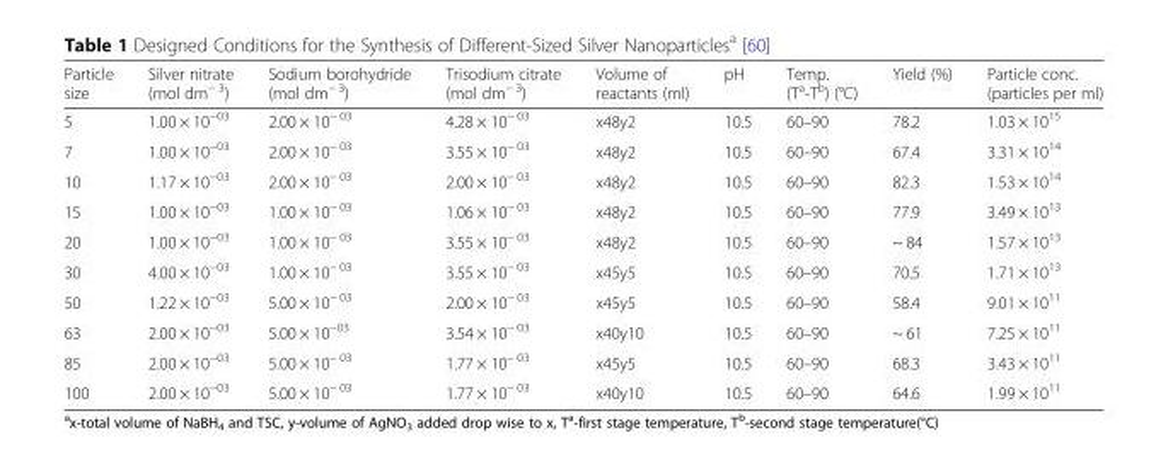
<table><thead><tr><td>Particle size</td><td>Silver nitrate (mol dm<sup>− 3</sup>)</td><td>Sodium borohydride (mol dm<sup>− 3</sup>)</td><td>Trisodium citrate (mol dm<sup>− 3</sup>)</td><td>Volume of reactants (ml)</td><td>pH</td><td>Temp. (T<sup>a</sup>-T<sup>b</sup>) (°C)</td><td>Yield (%)</td><td>Particle conc. (particles per ml)</td></tr></thead><tbody><tr><td>5</td><td>1.00 × 10<sup>−03</sup></td><td>2.00 × 10<sup>− 03</sup></td><td>4.28 × 10<sup>− 03</sup></td><td>x48y2</td><td>10.5</td><td>60–90</td><td>78.2</td><td>1.03 × 10<sup>15</sup></td></tr><tr><td>7</td><td>1.00 × 10<sup>−03</sup></td><td>2.00 × 10<sup>− 03</sup></td><td>3.55 × 10<sup>− 03</sup></td><td>x48y2</td><td>10.5</td><td>60–90</td><td>67.4</td><td>3.31 × 10<sup>14</sup></td></tr><tr><td>10</td><td>1.17 × 10<sup>−03</sup></td><td>2.00 × 10<sup>− 03</sup></td><td>2.00 × 10<sup>− 03</sup></td><td>x48y2</td><td>10.5</td><td>60–90</td><td>82.3</td><td>1.53 × 10<sup>14</sup></td></tr><tr><td>15</td><td>1.00 × 10<sup>−03</sup></td><td>1.00 × 10<sup>− 03</sup></td><td>1.06 × 10<sup>− 03</sup></td><td>x48y2</td><td>10.5</td><td>60–90</td><td>77.9</td><td>3.49 × 10<sup>13</sup></td></tr><tr><td>20</td><td>1.00 × 10<sup>−03</sup></td><td>1.00 × 10<sup>− 03</sup></td><td>3.55 × 10<sup>− 03</sup></td><td>x48y2</td><td>10.5</td><td>60–90</td><td>~ 84</td><td>1.57 × 10<sup>13</sup></td></tr><tr><td>30</td><td>4.00 × 10<sup>−03</sup></td><td>1.00 × 10<sup>− 03</sup></td><td>3.55 × 10<sup>− 03</sup></td><td>x45y5</td><td>10.5</td><td>60–90</td><td>70.5</td><td>1.71 × 10<sup>13</sup></td></tr><tr><td>50</td><td>1.22 × 10<sup>−03</sup></td><td>5.00 × 10<sup>− 03</sup></td><td>2.00 × 10<sup>− 03</sup></td><td>x45y5</td><td>10.5</td><td>60–90</td><td>58.4</td><td>9.01 × 10<sup>11</sup></td></tr><tr><td>63</td><td>2.00 × 10<sup>−03</sup></td><td>5.00 × 10<sup>−03</sup></td><td>3.54 × 10<sup>− 03</sup></td><td>x40y10</td><td>10.5</td><td>60–90</td><td>~ 61</td><td>7.25 × 10<sup>11</sup></td></tr><tr><td>85</td><td>2.00 × 10<sup>−03</sup></td><td>5.00 × 10<sup>− 03</sup></td><td>1.77 × 10<sup>− 03</sup></td><td>x45y5</td><td>10.5</td><td>60–90</td><td>68.3</td><td>3.43 × 10<sup>11</sup></td></tr><tr><td>100</td><td>2.00 × 10<sup>−03</sup></td><td>5.00 × 10<sup>− 03</sup></td><td>1.77 × 10<sup>− 03</sup></td><td>x40y10</td><td>10.5</td><td>60–90</td><td>64.6</td><td>1.99 × 10<sup>11</sup></td></tr></tbody></table>